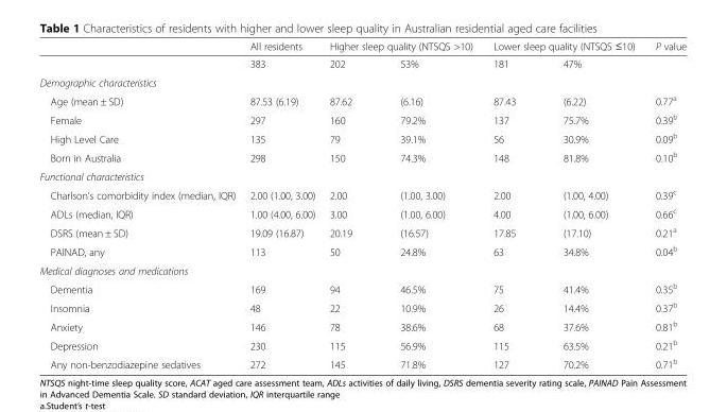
<table><thead><tr><td rowspan="2"></td><td rowspan="2">All residents 383</td><td colspan="2">Higher sleep quality (NTSQS &gt;10)</td><td colspan="2">Lower sleep quality (NTSQS ≤10)</td><td rowspan="2">P value</td></tr><tr><td>202</td><td>53%</td><td>181</td><td>47%</td></tr></thead><tbody><tr><td colspan="7">Demographic characteristics</td></tr><tr><td>Age (mean ± SD)</td><td>87.53 (6.19)</td><td>87.62</td><td>(6.16)</td><td>87.43</td><td>(6.22)</td><td>0.77<sup>a</sup></td></tr><tr><td>Female</td><td>297</td><td>160</td><td>79.2%</td><td>137</td><td>75.7%</td><td>0.39<sup>b</sup></td></tr><tr><td>High Level Care</td><td>135</td><td>79</td><td>39.1%</td><td>56</td><td>30.9%</td><td>0.09<sup>b</sup></td></tr><tr><td>Born in Australia</td><td>298</td><td>150</td><td>74.3%</td><td>148</td><td>81.8%</td><td>0.10<sup>b</sup></td></tr><tr><td colspan="7">Functional characteristics</td></tr><tr><td>Charlson’s comorbidity index (median, IQR)</td><td>2.00 (1.00, 3.00)</td><td>2.00</td><td>(1.00, 3.00)</td><td>2.00</td><td>(1.00, 4.00)</td><td>0.39<sup>c</sup></td></tr><tr><td>ADLs (median, IQR)</td><td>1.00 (4.00, 6.00)</td><td>3.00</td><td>(1.00, 6.00)</td><td>4.00</td><td>(1.00, 6.00)</td><td>0.66<sup>c</sup></td></tr><tr><td>DSRS (mean ± SD)</td><td>19.09 (16.87)</td><td>20.19</td><td>(16.57)</td><td>17.85</td><td>(17.10)</td><td>0.21<sup>a</sup></td></tr><tr><td>PAINAD, any</td><td>113</td><td>50</td><td>24.8%</td><td>63</td><td>34.8%</td><td>0.04<sup>b</sup></td></tr><tr><td colspan="7">Medical diagnoses and medications</td></tr><tr><td>Dementia</td><td>169</td><td>94</td><td>46.5%</td><td>75</td><td>41.4%</td><td>0.35<sup>b</sup></td></tr><tr><td>Insomnia</td><td>48</td><td>22</td><td>10.9%</td><td>26</td><td>14.4%</td><td>0.37<sup>b</sup></td></tr><tr><td>Anxiety</td><td>146</td><td>78</td><td>38.6%</td><td>68</td><td>37.6%</td><td>0.81<sup>b</sup></td></tr><tr><td>Depression</td><td>230</td><td>115</td><td>56.9%</td><td>115</td><td>63.5%</td><td>0.21<sup>b</sup></td></tr><tr><td>Any non-benzodiazepine sedatives</td><td>272</td><td>145</td><td>71.8%</td><td>127</td><td>70.2%</td><td>0.71<sup>b</sup></td></tr></tbody></table>